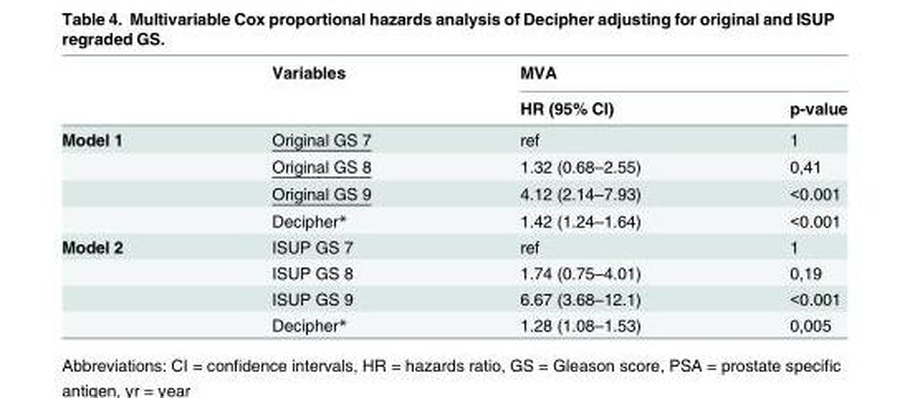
<table><thead><tr><td rowspan="2"></td><td rowspan="2">Variables</td><td colspan="2">MVA</td></tr><tr><td>HR (95% CI)</td><td>p-value</td></tr></thead><tbody><tr><td rowspan="4">Model 1</td><td>Original GS 7</td><td>ref</td><td>1</td></tr><tr><td>Original GS 8</td><td>1.32 (0.68–2.55)</td><td>0,41</td></tr><tr><td>Original GS 9</td><td>4.12 (2.14–7.93)</td><td>&lt;0.001</td></tr><tr><td>Decipher*</td><td>1.42 (1.24–1.64)</td><td>&lt;0.001</td></tr><tr><td rowspan="4">Model 2</td><td>ISUP GS 7</td><td>ref</td><td>1</td></tr><tr><td>ISUP GS 8</td><td>1.74 (0.75–4.01)</td><td>0,19</td></tr><tr><td>ISUP GS 9</td><td>6.67 (3.68–12.1)</td><td>&lt;0.001</td></tr><tr><td>Decipher*</td><td>1.28 (1.08–1.53)</td><td>0,005</td></tr></tbody></table>